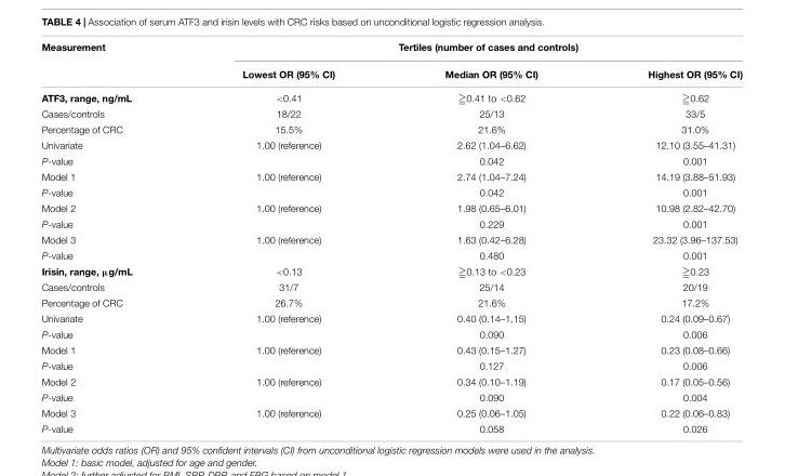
<table><thead><tr><td rowspan="2">Measurement</td><td colspan="3">Tertiles (number of cases and controls)</td></tr><tr><td>Lowest OR (95% CI)</td><td>Median OR (95% CI)</td><td>Highest OR (95% CI)</td></tr></thead><tbody><tr><td>ATF3, range, ng/mL</td><td>&lt;0.41</td><td>≧0.41 to &lt;0.62</td><td>≧0.62</td></tr><tr><td>Cases/controls</td><td>18/22</td><td>25/13</td><td>33/5</td></tr><tr><td>Percentage of CRC</td><td>15.5%</td><td>21.6%</td><td>31.0%</td></tr><tr><td>Univariate</td><td>1.00 (reference)</td><td>2.62 (1.04–6.62)</td><td>12.10 (3.55–41.31)</td></tr><tr><td>P-value</td><td></td><td>0.042</td><td>0.001</td></tr><tr><td>Model 1</td><td>1.00 (reference)</td><td>2.74 (1.04–7.24)</td><td>14.19 (3.88–51.93)</td></tr><tr><td>P-value</td><td></td><td>0.042</td><td>0.001</td></tr><tr><td>Model 2</td><td>1.00 (reference)</td><td>1.98 (0.65–6.01)</td><td>10.98 (2.82–42.70)</td></tr><tr><td>P-value</td><td></td><td>0.229</td><td>0.001</td></tr><tr><td>Model 3</td><td>1.00 (reference)</td><td>1.63 (0.42–6.28)</td><td>23.32 (3.96–137.53)</td></tr><tr><td>P-value</td><td></td><td>0.480</td><td>0.001</td></tr><tr><td>Irisin, range, µg/mL</td><td>&lt;0.13</td><td>≧0.13 to &lt;0.23</td><td>≧0.23</td></tr><tr><td>Cases/controls</td><td>31/7</td><td>25/14</td><td>20/19</td></tr><tr><td>Percentage of CRC</td><td>26.7%</td><td>21.6%</td><td>17.2%</td></tr><tr><td>Univariate</td><td>1.00 (reference)</td><td>0.40 (0.14–1.15)</td><td>0.24 (0.09–0.67)</td></tr><tr><td>P-value</td><td></td><td>0.090</td><td>0.006</td></tr><tr><td>Model 1</td><td>1.00 (reference)</td><td>0.43 (0.15–1.27)</td><td>0.23 (0.08–0.66)</td></tr><tr><td>P-value</td><td></td><td>0.127</td><td>0.006</td></tr><tr><td>Model 2</td><td>1.00 (reference)</td><td>0.34 (0.10–1.19)</td><td>0.17 (0.05–0.56)</td></tr><tr><td>P-value</td><td></td><td>0.090</td><td>0.004</td></tr><tr><td>Model 3</td><td>1.00 (reference)</td><td>0.25 (0.06–1.05)</td><td>0.22 (0.06–0.83)</td></tr><tr><td>P-value</td><td></td><td>0.058</td><td>0.026</td></tr></tbody></table>